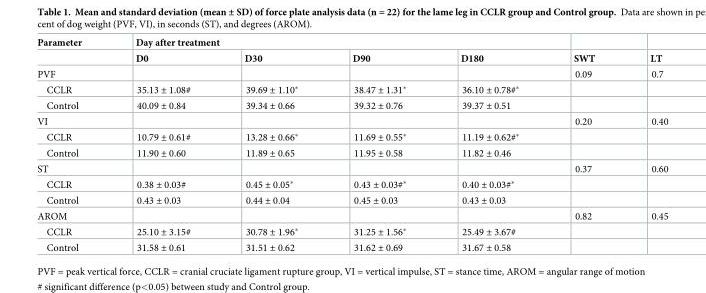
<table><thead><tr><td rowspan="2">Parameter</td><td colspan="4">Day after treatment</td><td rowspan="2">SWT</td><td rowspan="2">LT</td></tr><tr><td>D0</td><td>D30</td><td>D90</td><td>D180</td></tr></thead><tbody><tr><td>PVF</td><td></td><td></td><td></td><td></td><td>0.09</td><td>0.7</td></tr><tr><td>CCLR</td><td>35.13 ± 1.08#</td><td>39.69 ± 1.10*</td><td>38.47 ± 1.31*</td><td>36.10 ± 0.78#*</td><td></td><td></td></tr><tr><td>Control</td><td>40.09 ± 0.84</td><td>39.34 ± 0.66</td><td>39.32 ± 0.76</td><td>39.37 ± 0.51</td><td></td><td></td></tr><tr><td>VI</td><td></td><td></td><td></td><td></td><td>0.20</td><td>0.40</td></tr><tr><td>CCLR</td><td>10.79 ± 0.61#</td><td>13.28 ± 0.66*</td><td>11.69 ± 0.55*</td><td>11.19 ± 0.62#*</td><td></td><td></td></tr><tr><td>Control</td><td>11.90 ± 0.60</td><td>11.89 ± 0.65</td><td>11.95 ± 0.58</td><td>11.82 ± 0.46</td><td></td><td></td></tr><tr><td>ST</td><td></td><td></td><td></td><td></td><td>0.37</td><td>0.60</td></tr><tr><td>CCLR</td><td>0.38 ± 0.03#</td><td>0.45 ± 0.05*</td><td>0.43 ± 0.03#*</td><td>0.40 ± 0.03#*</td><td></td><td></td></tr><tr><td>Control</td><td>0.43 ± 0.03</td><td>0.44 ± 0.04</td><td>0.45 ± 0.03</td><td>0.43 ± 0.03</td><td></td><td></td></tr><tr><td>AROM</td><td></td><td></td><td></td><td></td><td>0.82</td><td>0.45</td></tr><tr><td>CCLR</td><td>25.10 ± 3.15#</td><td>30.78 ± 1.96*</td><td>31.25 ± 1.56*</td><td>25.49 ± 3.67#</td><td></td><td></td></tr><tr><td>Control</td><td>31.58 ± 0.61</td><td>31.51 ± 0.62</td><td>31.62 ± 0.69</td><td>31.67 ± 0.58</td><td></td><td></td></tr></tbody></table>